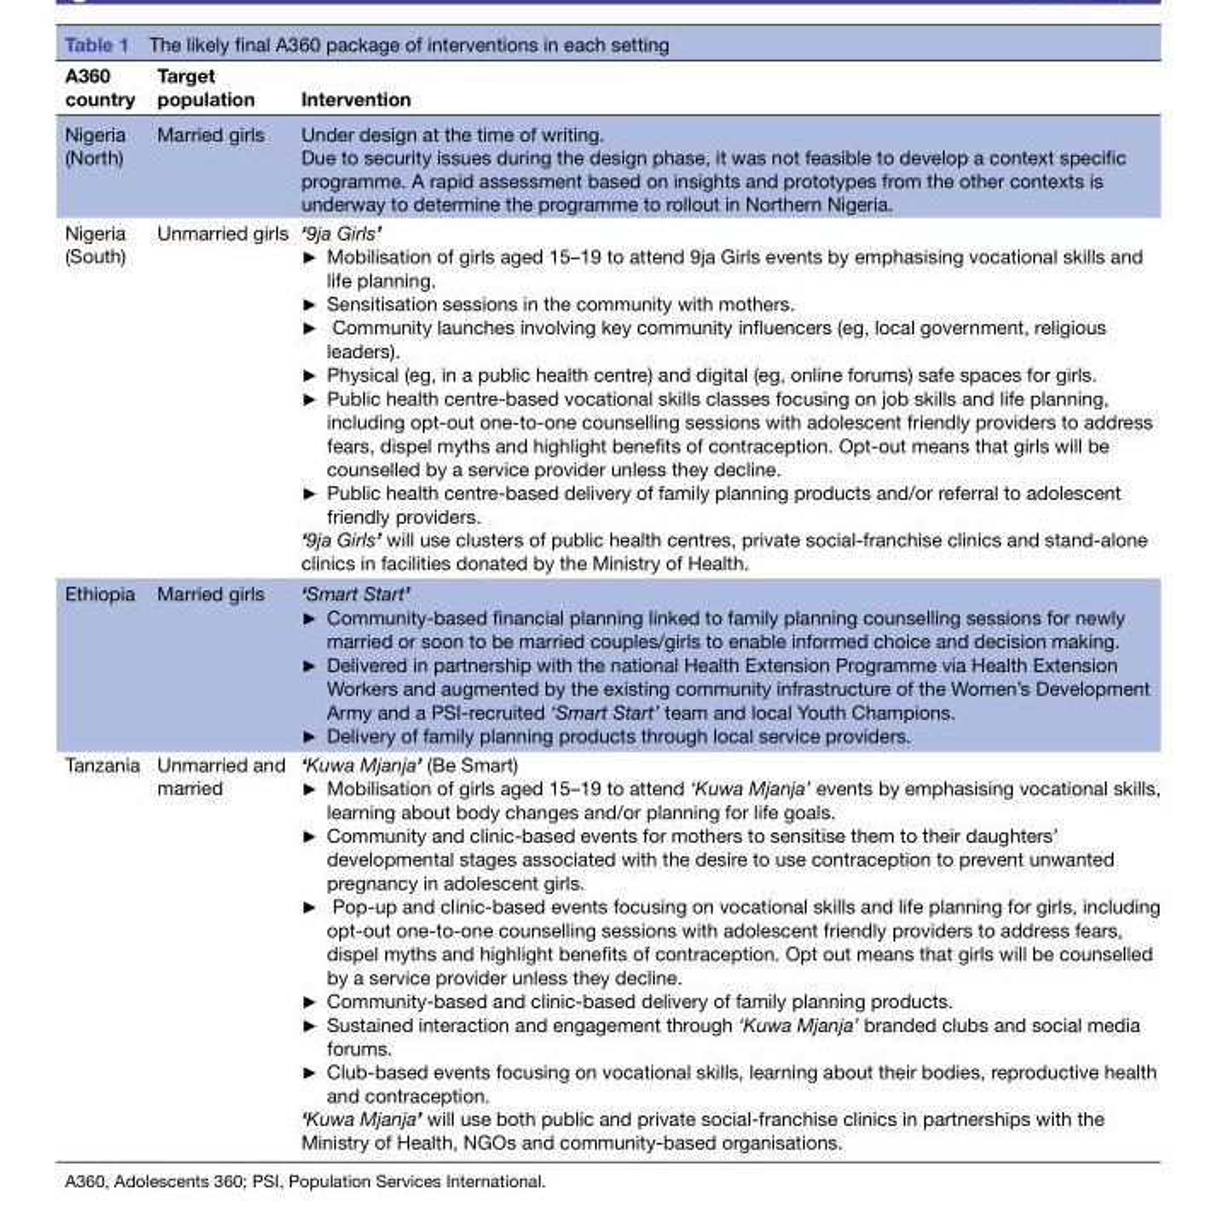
<table><thead><tr><td>A360 country</td><td>Target population</td><td>Intervention</td></tr></thead><tbody><tr><td>Nigeria (North)</td><td>Married girls</td><td>Under design at the time of writing. Due to security issues during the design phase, it was not feasible to develop a context specific programme. A rapid assessment based on insights and prototypes from the other contexts is underway to determine the programme to rollout in Northern Nigeria.</td></tr><tr><td>Nigeria (South)</td><td>Unmarried girls</td><td>‘9ja Girls’ ► Mobilisation of girls aged 15–19 to attend 9ja Girls events by emphasising vocational skills and life planning. ► Sensitisation sessions in the community with mothers. ► Community launches involving key community influencers (eg, local government, religious leaders). ► Physical (eg, in a public health centre) and digital (eg, online forums) safe spaces for girls. ► Public health centre-based vocational skills classes focusing on job skills and life planning, including opt-out one-to-one counselling sessions with adolescent friendly providers to address fears, dispel myths and highlight benefits of contraception. Opt-out means that girls will be counselled by a service provider unless they decline. ► Public health centre-based delivery of family planning products and/or referral to adolescent friendly providers. ‘9ja Girls’ will use clusters of public health centres, private social-franchise clinics and stand-alone clinics in facilities donated by the Ministry of Health.</td></tr><tr><td>Ethiopia</td><td>Married girls</td><td>‘Smart Start’ ► Community-based financial planning linked to family planning counselling sessions for newly married or soon to be married couples/girls to enable informed choice and decision making. ► Delivered in partnership with the national Health Extension Programme via Health Extension Workers and augmented by the existing community infrastructure of the Women’s Development Army and a PSI-recruited ‘Smart Start’ team and local Youth Champions. ► Delivery of family planning products through local service providers.</td></tr><tr><td>Tanzania</td><td>Unmarried and married</td><td>‘Kuwa Mjanja’ (Be Smart) ► Mobilisation of girls aged 15–19 to attend ‘Kuwa Mjanja’ events by emphasising vocational skills, learning about body changes and/or planning for life goals. ► Community and clinic-based events for mothers to sensitise them to their daughters’ developmental stages associated with the desire to use contraception to prevent unwanted pregnancy in adolescent girls. ► Pop-up and clinic-based events focusing on vocational skills and life planning for girls, including opt-out one-to-one counselling sessions with adolescent friendly providers to address fears, dispel myths and highlight benefits of contraception. Opt out means that girls will be counselled by a service provider unless they decline. ► Community-based and clinic-based delivery of family planning products. ► Sustained interaction and engagement through ‘Kuwa Mjanja’ branded clubs and social media forums. ► Club-based events focusing on vocational skills, learning about their bodies, reproductive health and contraception. ‘Kuwa Mjanja’ will use both public and private social-franchise clinics in partnerships with the Ministry of Health, NGOs and community-based organisations.</td></tr></tbody></table>